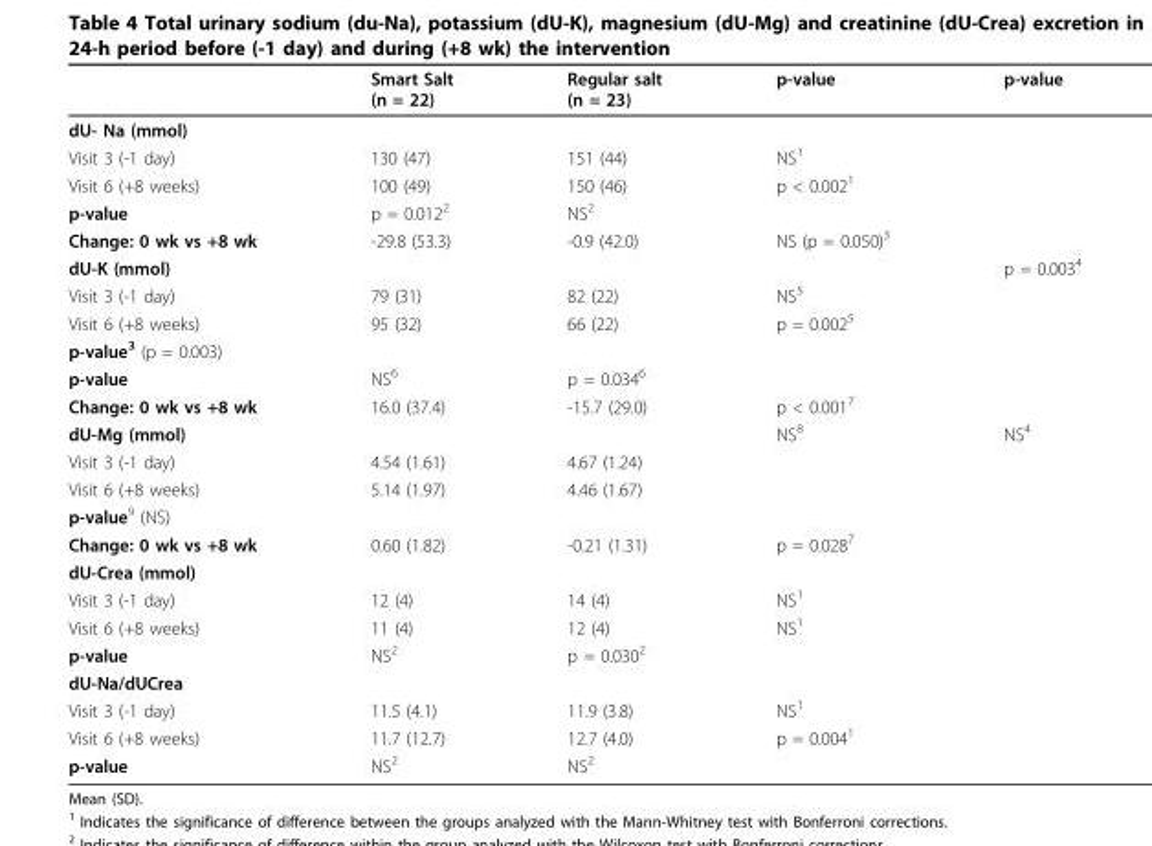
<table><thead><tr><td></td><td>Smart Salt (n = 22)</td><td>Regular salt (n = 23)</td><td>p-value</td><td>p-value</td></tr></thead><tbody><tr><td colspan="5">dU- Na (mmol)</td></tr><tr><td>Visit 3 (-1 day)</td><td>130 (47)</td><td>151 (44)</td><td>NS<sup>1</sup></td><td></td></tr><tr><td>Visit 6 (+8 weeks)</td><td>100 (49)</td><td>150 (46)</td><td>p &lt; 0.002<sup>1</sup></td><td></td></tr><tr><td>p-value</td><td>p = 0.012<sup>2</sup></td><td>NS<sup>2</sup></td><td></td><td></td></tr><tr><td>Change: 0 wk vs +8 wk</td><td>-29.8 (53.3)</td><td>-0.9 (42.0)</td><td>NS (p = 0.050)<sup>3</sup></td><td></td></tr><tr><td>dU-K (mmol)</td><td></td><td></td><td></td><td>p = 0.003<sup>4</sup></td></tr><tr><td>Visit 3 (-1 day)</td><td>79 (31)</td><td>82 (22)</td><td>NS<sup>5</sup></td><td></td></tr><tr><td>Visit 6 (+8 weeks)</td><td>95 (32)</td><td>66 (22)</td><td>p = 0.002<sup>5</sup></td><td></td></tr><tr><td colspan="5">p-value<sup>3</sup> (p = 0.003)</td></tr><tr><td>p-value</td><td>NS<sup>6</sup></td><td>p = 0.034<sup>6</sup></td><td></td><td></td></tr><tr><td>Change: 0 wk vs +8 wk</td><td>16.0 (37.4)</td><td>-15.7 (29.0)</td><td>p &lt; 0.001<sup>7</sup></td><td></td></tr><tr><td>dU-Mg (mmol)</td><td></td><td></td><td>NS<sup>8</sup></td><td>NS<sup>4</sup></td></tr><tr><td>Visit 3 (-1 day)</td><td>4.54 (1.61)</td><td>4.67 (1.24)</td><td></td><td></td></tr><tr><td>Visit 6 (+8 weeks)</td><td>5.14 (1.97)</td><td>4.46 (1.67)</td><td></td><td></td></tr><tr><td colspan="5">p-value<sup>9</sup> (NS)</td></tr><tr><td>Change: 0 wk vs +8 wk</td><td>0.60 (1.82)</td><td>-0.21 (1.31)</td><td>p = 0.028<sup>7</sup></td><td></td></tr><tr><td colspan="5">dU-Crea (mmol)</td></tr><tr><td>Visit 3 (-1 day)</td><td>12 (4)</td><td>14 (4)</td><td>NS<sup>1</sup></td><td></td></tr><tr><td>Visit 6 (+8 weeks)</td><td>11 (4)</td><td>12 (4)</td><td>NS<sup>1</sup></td><td></td></tr><tr><td>p-value</td><td>NS<sup>2</sup></td><td>p = 0.030<sup>2</sup></td><td></td><td></td></tr><tr><td colspan="5">dU-Na/dUCrea</td></tr><tr><td>Visit 3 (-1 day)</td><td>11.5 (4.1)</td><td>11.9 (3.8)</td><td>NS<sup>1</sup></td><td></td></tr><tr><td>Visit 6 (+8 weeks)</td><td>11.7 (12.7)</td><td>12.7 (4.0)</td><td>p = 0.004<sup>1</sup></td><td></td></tr><tr><td>p-value</td><td>NS<sup>2</sup></td><td>NS<sup>2</sup></td><td></td><td></td></tr></tbody></table>